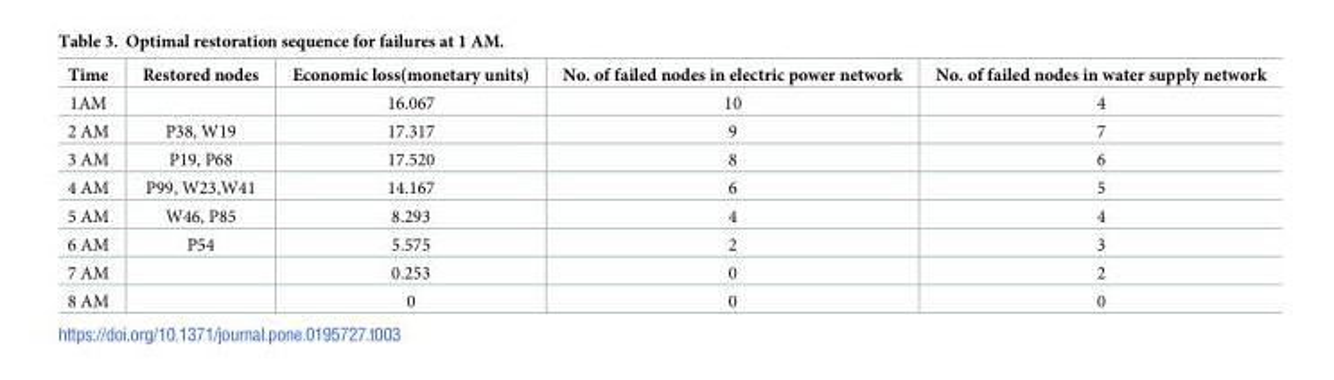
<table><thead><tr><td>Time</td><td>Restored nodes</td><td>Economic loss(monetary units)</td><td>No. of failed nodes in electric power network</td><td>No. of failed nodes in water supply network</td></tr></thead><tbody><tr><td>1AM</td><td></td><td>16.067</td><td>10</td><td>4</td></tr><tr><td>2 AM</td><td>P38, W19</td><td>17.317</td><td>9</td><td>7</td></tr><tr><td>3 AM</td><td>P19, P68</td><td>17.520</td><td>8</td><td>6</td></tr><tr><td>4 AM</td><td>P99, W23,W41</td><td>14.167</td><td>6</td><td>5</td></tr><tr><td>5 AM</td><td>W46, P85</td><td>8.293</td><td>4</td><td>4</td></tr><tr><td>6 AM</td><td>P54</td><td>5.575</td><td>2</td><td>3</td></tr><tr><td>7 AM</td><td></td><td>0.253</td><td>0</td><td>2</td></tr><tr><td>8 AM</td><td></td><td>0</td><td>0</td><td>0</td></tr></tbody></table>